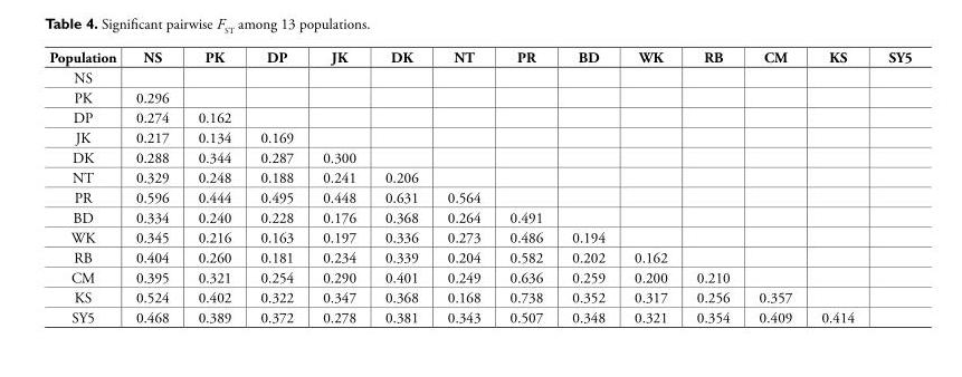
<table><thead><tr><td>Population</td><td>NS</td><td>PK</td><td>DP</td><td>JK</td><td>DK</td><td>NT</td><td>PR</td><td>BD</td><td>WK</td><td>RB</td><td>CM</td><td>KS</td><td>SY5</td></tr></thead><tbody><tr><td colspan="14">NS</td></tr><tr><td>PK</td><td>0.296</td><td></td><td></td><td></td><td></td><td></td><td></td><td></td><td></td><td></td><td></td><td></td><td></td></tr><tr><td>DP</td><td>0.274</td><td>0.162</td><td></td><td></td><td></td><td></td><td></td><td></td><td></td><td></td><td></td><td></td><td></td></tr><tr><td>JK</td><td>0.217</td><td>0.134</td><td>0.169</td><td></td><td></td><td></td><td></td><td></td><td></td><td></td><td></td><td></td><td></td></tr><tr><td>DK</td><td>0.288</td><td>0.344</td><td>0.287</td><td>0.300</td><td></td><td></td><td></td><td></td><td></td><td></td><td></td><td></td><td></td></tr><tr><td>NT</td><td>0.329</td><td>0.248</td><td>0.188</td><td>0.241</td><td>0.206</td><td></td><td></td><td></td><td></td><td></td><td></td><td></td><td></td></tr><tr><td>PR</td><td>0.596</td><td>0.444</td><td>0.495</td><td>0.448</td><td>0.631</td><td>0.564</td><td></td><td></td><td></td><td></td><td></td><td></td><td></td></tr><tr><td>BD</td><td>0.334</td><td>0.240</td><td>0.228</td><td>0.176</td><td>0.368</td><td>0.264</td><td>0.491</td><td></td><td></td><td></td><td></td><td></td><td></td></tr><tr><td>WK</td><td>0.345</td><td>0.216</td><td>0.163</td><td>0.197</td><td>0.336</td><td>0.273</td><td>0.486</td><td>0.194</td><td></td><td></td><td></td><td></td><td></td></tr><tr><td>RB</td><td>0.404</td><td>0.260</td><td>0.181</td><td>0.234</td><td>0.339</td><td>0.204</td><td>0.582</td><td>0.202</td><td>0.162</td><td></td><td></td><td></td><td></td></tr><tr><td>CM</td><td>0.395</td><td>0.321</td><td>0.254</td><td>0.290</td><td>0.401</td><td>0.249</td><td>0.636</td><td>0.259</td><td>0.200</td><td>0.210</td><td></td><td></td><td></td></tr><tr><td>KS</td><td>0.524</td><td>0.402</td><td>0.322</td><td>0.347</td><td>0.368</td><td>0.168</td><td>0.738</td><td>0.352</td><td>0.317</td><td>0.256</td><td>0.357</td><td></td><td></td></tr><tr><td>SY5</td><td>0.468</td><td>0.389</td><td>0.372</td><td>0.278</td><td>0.381</td><td>0.343</td><td>0.507</td><td>0.348</td><td>0.321</td><td>0.354</td><td>0.409</td><td>0.414</td><td></td></tr></tbody></table>